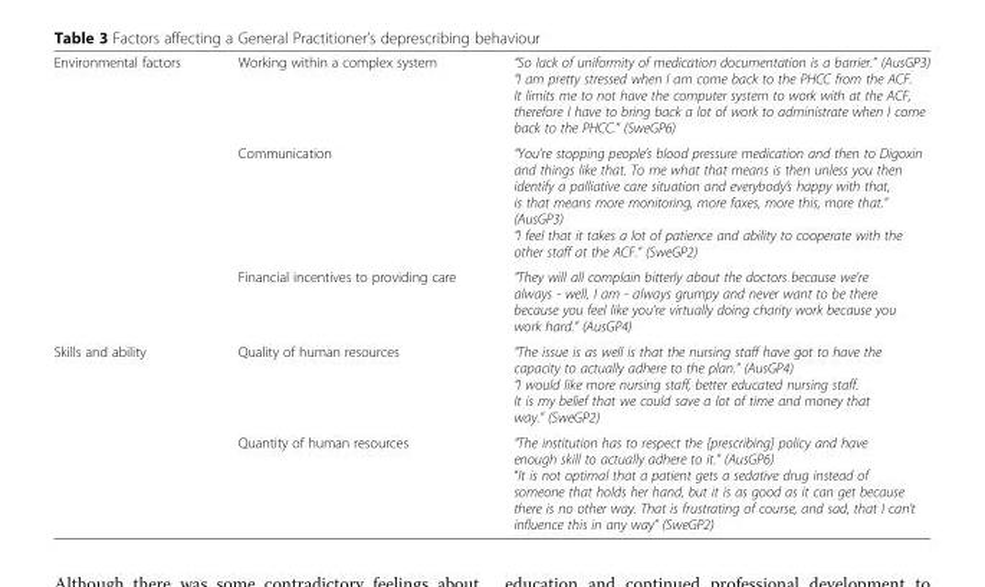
<table><tbody><tr><td rowspan="3">Environmental factors</td><td>Working within a complex system</td><td>“So lack of uniformity of medication documentation is a barrier.” (AusGP3) “I am pretty stressed when I am come back to the PHCC from the ACF. It limits me to not have the computer system to work with at the ACF, therefore I have to bring back a lot of work to administrate when I come back to the PHCC.” (SweGP6)</td></tr><tr><td>Communication</td><td>“You’re stopping people’s blood pressure medication and then to Digoxin and things like that. To me what that means is then unless you then identify a palliative care situation and everybody’s happy with that, is that means more monitoring, more faxes, more this, more that.” (AusGP3) “I feel that it takes a lot of patience and ability to cooperate with the other staff at the ACF.” (SweGP2)</td></tr><tr><td>Financial incentives to providing care</td><td>“They will all complain bitterly about the doctors because we’re always - well, I am - always grumpy and never want to be there because you feel like you’re virtually doing charity work because you work hard.” (AusGP4)</td></tr><tr><td rowspan="2">Skills and ability</td><td>Quality of human resources</td><td>“The issue is as well is that the nursing staff have got to have the capacity to actually adhere to the plan.” (AusGP4) “I would like more nursing staff, better educated nursing staff. It is my belief that we could save a lot of time and money that way.” (SweGP2)</td></tr><tr><td>Quantity of human resources</td><td>“The institution has to respect the [prescribing] policy and have enough skill to actually adhere to it.” (AusGP6) “It is not optimal that a patient gets a sedative drug instead of someone that holds her hand, but it is as good as it can get because there is no other way. That is frustrating of course, and sad, that I can’t influence this in any way” (SweGP2)</td></tr></tbody></table>